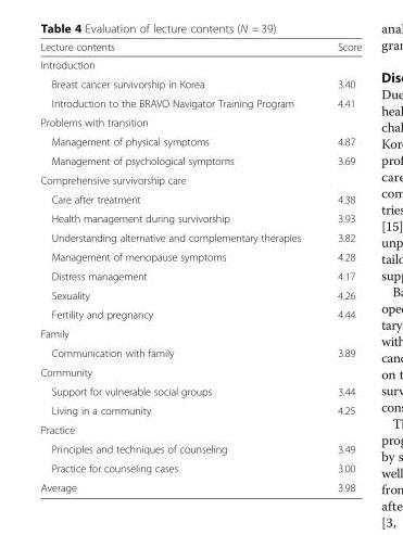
<table><thead><tr><td>Lecture contents</td><td>Score</td></tr></thead><tbody><tr><td colspan="2">Introduction</td></tr><tr><td>Breast cancer survivorship in Korea</td><td>3.40</td></tr><tr><td>Introduction to the BRAVO Navigator Training Program</td><td>4.41</td></tr><tr><td colspan="2">Problems with transition</td></tr><tr><td>Management of physical symptoms</td><td>4.87</td></tr><tr><td>Management of psychological symptoms</td><td>3.69</td></tr><tr><td colspan="2">Comprehensive survivorship care</td></tr><tr><td>Care after treatment</td><td>4.38</td></tr><tr><td>Health management during survivorship</td><td>3.93</td></tr><tr><td>Understanding alternative and complementary therapies</td><td>3.82</td></tr><tr><td>Management of menopause symptoms</td><td>4.28</td></tr><tr><td>Distress management</td><td>4.17</td></tr><tr><td>Sexuality</td><td>4.26</td></tr><tr><td>Fertility and pregnancy</td><td>4.44</td></tr><tr><td colspan="2">Family</td></tr><tr><td>Communication with family</td><td>3.89</td></tr><tr><td colspan="2">Community</td></tr><tr><td>Support for vulnerable social groups</td><td>3.44</td></tr><tr><td>Living in a community</td><td>4.25</td></tr><tr><td colspan="2">Practice</td></tr><tr><td>Principles and techniques of counseling</td><td>3.49</td></tr><tr><td>Practice for counseling cases</td><td>3.00</td></tr><tr><td>Average</td><td>3.98</td></tr></tbody></table>